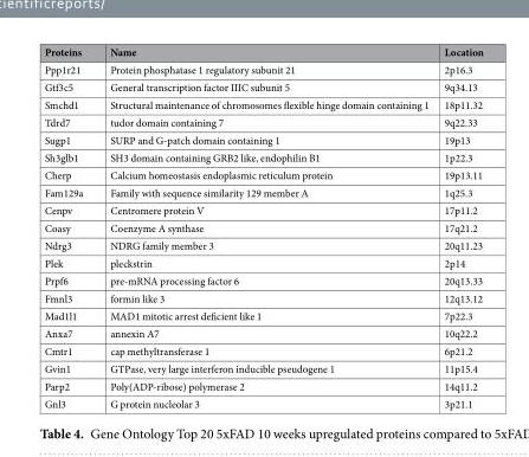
<table><thead><tr><td>Proteins</td><td>Name</td><td>Location</td></tr></thead><tbody><tr><td>Ppp1r21</td><td>Protein phosphatase 1 regulatory subunit 21</td><td>2p16.3</td></tr><tr><td>Gtf3c5</td><td>General transcription factor IIIC subunit 5</td><td>9q34.13</td></tr><tr><td>Smchd1</td><td>Structural maintenance of chromosomes flexible hinge domain containing 1</td><td>18p11.32</td></tr><tr><td>Tdrd7</td><td>tudor domain containing 7</td><td>9q22.33</td></tr><tr><td>Sugp1</td><td>SURP and G-patch domain containing 1</td><td>19p13</td></tr><tr><td>Sh3glb1</td><td>SH3 domain containing GRB2 like, endophilin B1</td><td>1p22.3</td></tr><tr><td>Cherp</td><td>Calcium homeostasis endoplasmic reticulum protein</td><td>19p13.11</td></tr><tr><td>Fam129a</td><td>Family with sequence similarity 129 member A</td><td>1q25.3</td></tr><tr><td>Cenpv</td><td>Centromere protein V</td><td>17p11.2</td></tr><tr><td>Coasy</td><td>Coenzyme A synthase</td><td>17q21.2</td></tr><tr><td>Ndrg3</td><td>NDRG family member 3</td><td>20q11.23</td></tr><tr><td>Plek</td><td>pleckstrin</td><td>2p14</td></tr><tr><td>Prpf6</td><td>pre-mRNA processing factor 6</td><td>20q13.33</td></tr><tr><td>Fmnl3</td><td>formin like 3</td><td>12q13.12</td></tr><tr><td>Mad1l1</td><td>MAD1 mitotic arrest deficient like 1</td><td>7p22.3</td></tr><tr><td>Anxa7</td><td>annexin A7</td><td>10q22.2</td></tr><tr><td>Cmtr1</td><td>cap methyltransferase 1</td><td>6p21.2</td></tr><tr><td>Gvin1</td><td>GTPase, very large interferon inducible pseudogene 1</td><td>11p15.4</td></tr><tr><td>Parp2</td><td>Poly(ADP-ribose) polymerase 2</td><td>14q11.2</td></tr><tr><td>Gnl3</td><td>G protein nucleolar 3</td><td>3p21.1</td></tr></tbody></table>